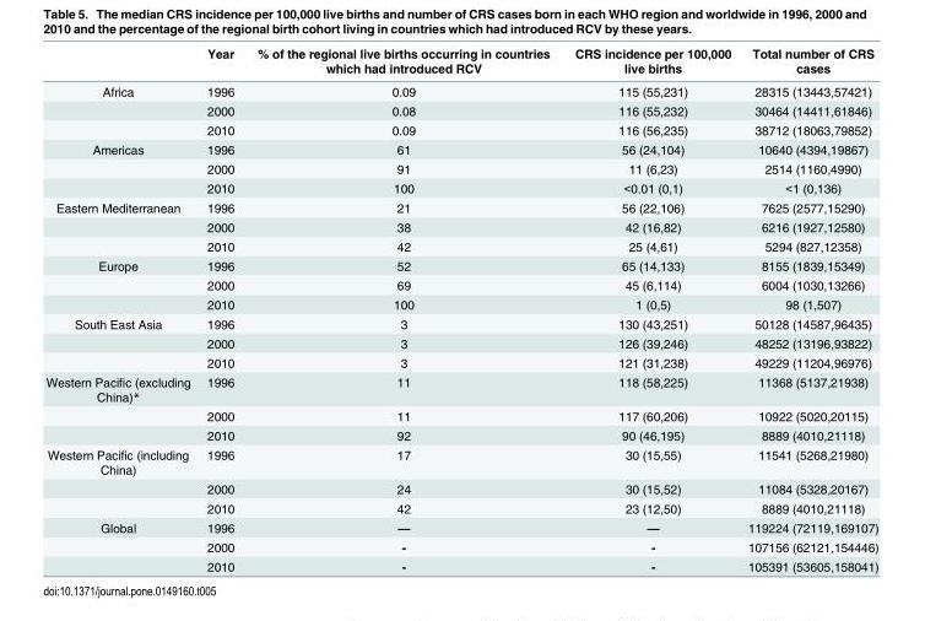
<table><thead><tr><td></td><td>Year</td><td>% of the regional live births occurring in countries which had introduced RCV</td><td>CRS incidence per 100,000 live births</td><td>Total number of CRS cases</td></tr></thead><tbody><tr><td rowspan="3">Africa</td><td>1996</td><td>0.09</td><td>115 (55,231)</td><td>28315 (13443,57421)</td></tr><tr><td>2000</td><td>0.08</td><td>116 (55,232)</td><td>30464 (14411,61846)</td></tr><tr><td>2010</td><td>0.09</td><td>116 (56,235)</td><td>38712 (18063,79852)</td></tr><tr><td rowspan="3">Americas</td><td>1996</td><td>61</td><td>56 (24,104)</td><td>10640 (4394,19867)</td></tr><tr><td>2000</td><td>91</td><td>11 (6,23)</td><td>2514 (1160,4990)</td></tr><tr><td>2010</td><td>100</td><td>&lt;0.01 (0,1)</td><td>&lt;1 (0,136)</td></tr><tr><td rowspan="3">Eastern Mediterranean</td><td>1996</td><td>21</td><td>56 (22,106)</td><td>7625 (2577,15290)</td></tr><tr><td>2000</td><td>38</td><td>42 (16,82)</td><td>6216 (1927,12580)</td></tr><tr><td>2010</td><td>42</td><td>25 (4,61)</td><td>5294 (827,12358)</td></tr><tr><td rowspan="3">Europe</td><td>1996</td><td>52</td><td>65 (14,133)</td><td>8155 (1839,15349)</td></tr><tr><td>2000</td><td>69</td><td>45 (6,114)</td><td>6004 (1030,13266)</td></tr><tr><td>2010</td><td>100</td><td>1 (0,5)</td><td>98 (1,507)</td></tr><tr><td rowspan="3">South East Asia</td><td>1996</td><td>3</td><td>130 (43,251)</td><td>50128 (14587,96435)</td></tr><tr><td>2000</td><td>3</td><td>126 (39,246)</td><td>48252 (13196,93822)</td></tr><tr><td>2010</td><td>3</td><td>121 (31,238)</td><td>49229 (11204,96976)</td></tr><tr><td rowspan="3">Western Pacific (excluding China)*</td><td>1996</td><td>11</td><td>118 (58,225)</td><td>11368 (5137,21938)</td></tr><tr><td>2000</td><td>11</td><td>117 (60,206)</td><td>10922 (5020,20115)</td></tr><tr><td>2010</td><td>92</td><td>90 (46,195)</td><td>8889 (4010,21118)</td></tr><tr><td rowspan="3">Western Pacific (including China)</td><td>1996</td><td>17</td><td>30 (15,55)</td><td>11541 (5268,21980)</td></tr><tr><td>2000</td><td>24</td><td>30 (15,52)</td><td>11084 (5328,20167)</td></tr><tr><td>2010</td><td>42</td><td>23 (12,50)</td><td>8889 (4010,21118)</td></tr><tr><td rowspan="3">Global</td><td>1996</td><td>—</td><td>—</td><td>119224 (72119,169107)</td></tr><tr><td>2000</td><td>-</td><td>-</td><td>107156 (62121,154446)</td></tr><tr><td>2010</td><td>-</td><td>-</td><td>105391 (53605,158041)</td></tr></tbody></table>